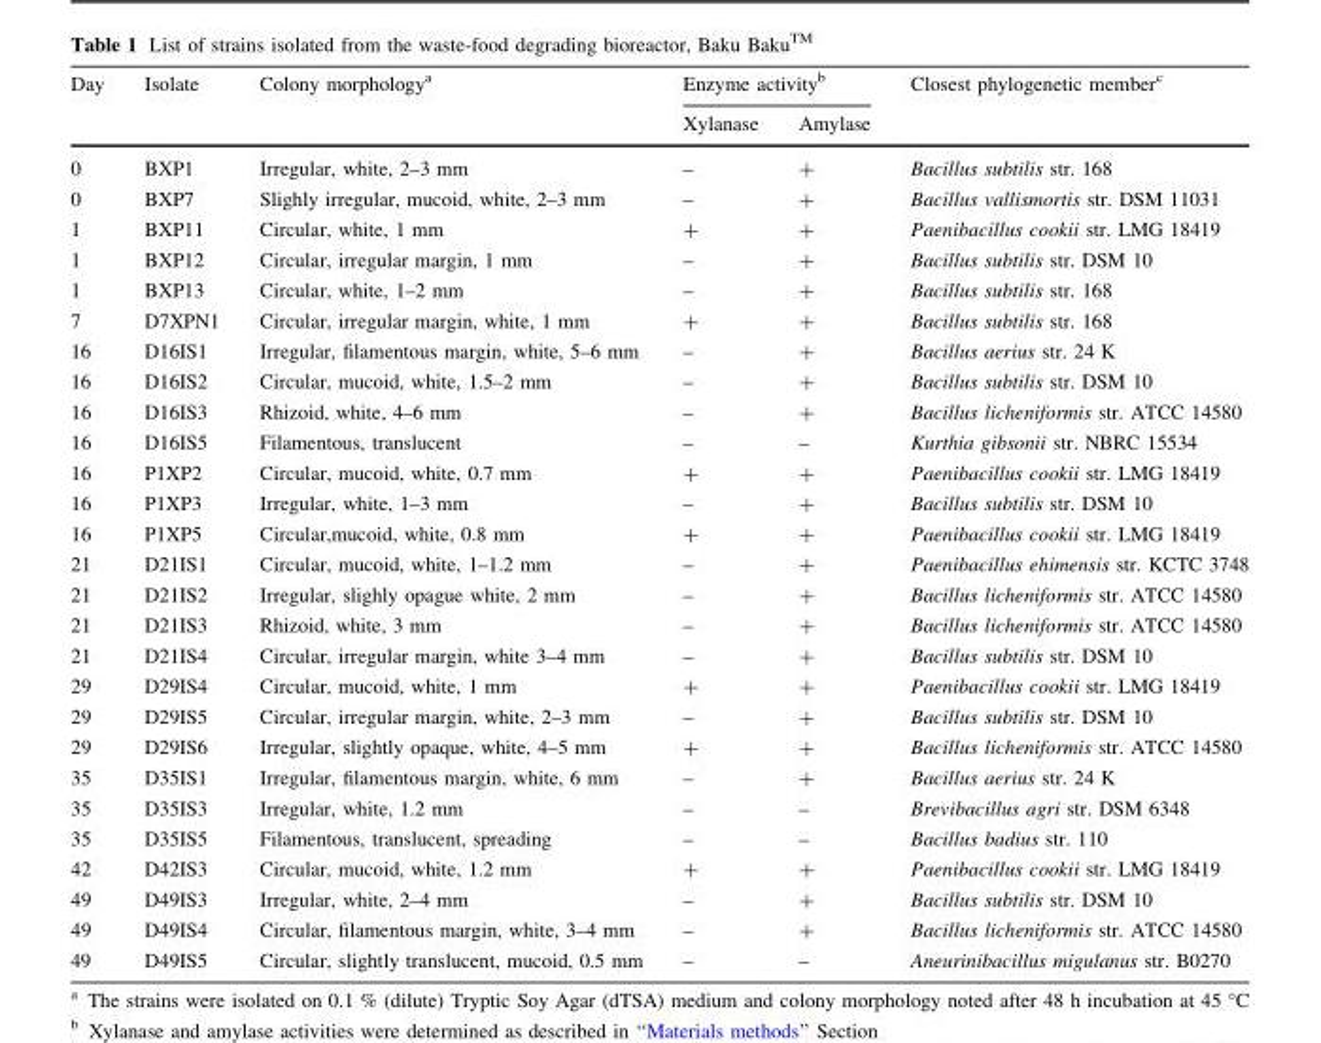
<table><thead><tr><td rowspan="2">Day</td><td rowspan="2">Isolate</td><td rowspan="2">Colony morphology<sup>a</sup></td><td colspan="2">Enzyme activity<sup>b</sup></td><td rowspan="2">Closest phylogenetic member<sup>c</sup></td></tr><tr><td>Xylanase</td><td>Amylase</td></tr></thead><tbody><tr><td>0</td><td>BXP1</td><td>Irregular, white, 2–3 mm</td><td>–</td><td>+</td><td>Bacillus subtilis str. 168</td></tr><tr><td>0</td><td>BXP7</td><td>Slighly irregular, mucoid, white, 2–3 mm</td><td>–</td><td>+</td><td>Bacillus vallismortis str. DSM 11031</td></tr><tr><td>1</td><td>BXP11</td><td>Circular, white, 1 mm</td><td>+</td><td>+</td><td>Paenibacillus cookii str. LMG 18419</td></tr><tr><td>1</td><td>BXP12</td><td>Circular, irregular margin, 1 mm</td><td>–</td><td>+</td><td>Bacillus subtilis str. DSM 10</td></tr><tr><td>1</td><td>BXP13</td><td>Circular, white, 1–2 mm</td><td>–</td><td>+</td><td>Bacillus subtilis str. 168</td></tr><tr><td>7</td><td>D7XPN1</td><td>Circular, irregular margin, white, 1 mm</td><td>+</td><td>+</td><td>Bacillus subtilis str. 168</td></tr><tr><td>16</td><td>D16IS1</td><td>Irregular, filamentous margin, white, 5–6 mm</td><td>–</td><td>+</td><td>Bacillus aerius str. 24 K</td></tr><tr><td>16</td><td>D16IS2</td><td>Circular, mucoid, white, 1.5–2 mm</td><td>–</td><td>+</td><td>Bacillus subtilis str. DSM 10</td></tr><tr><td>16</td><td>D16IS3</td><td>Rhizoid, white, 4–6 mm</td><td>–</td><td>+</td><td>Bacillus licheniformis str. ATCC 14580</td></tr><tr><td>16</td><td>D16IS5</td><td>Filamentous, translucent</td><td>–</td><td>–</td><td>Kurthia gibsonii str. NBRC 15534</td></tr><tr><td>16</td><td>P1XP2</td><td>Circular, mucoid, white, 0.7 mm</td><td>+</td><td>+</td><td>Paenibacillus cookii str. LMG 18419</td></tr><tr><td>16</td><td>P1XP3</td><td>Irregular, white, 1–3 mm</td><td>–</td><td>+</td><td>Bacillus subtilis str. DSM 10</td></tr><tr><td>16</td><td>P1XP5</td><td>Circular,mucoid, white, 0.8 mm</td><td>+</td><td>+</td><td>Paenibacillus cookii str. LMG 18419</td></tr><tr><td>21</td><td>D21IS1</td><td>Circular, mucoid, white, 1–1.2 mm</td><td>–</td><td>+</td><td>Paenibacillus ehimensis str. KCTC 3748</td></tr><tr><td>21</td><td>D21IS2</td><td>Irregular, slighly opague white, 2 mm</td><td>–</td><td>+</td><td>Bacillus licheniformis str. ATCC 14580</td></tr><tr><td>21</td><td>D21IS3</td><td>Rhizoid, white, 3 mm</td><td>–</td><td>+</td><td>Bacillus licheniformis str. ATCC 14580</td></tr><tr><td>21</td><td>D21IS4</td><td>Circular, irregular margin, white 3–4 mm</td><td>–</td><td>+</td><td>Bacillus subtilis str. DSM 10</td></tr><tr><td>29</td><td>D29IS4</td><td>Circular, mucoid, white, 1 mm</td><td>+</td><td>+</td><td>Paenibacillus cookii str. LMG 18419</td></tr><tr><td>29</td><td>D29IS5</td><td>Circular, irregular margin, white, 2–3 mm</td><td>–</td><td>+</td><td>Bacillus subtilis str. DSM 10</td></tr><tr><td>29</td><td>D29IS6</td><td>Irregular, slightly opaque, white, 4–5 mm</td><td>+</td><td>+</td><td>Bacillus licheniformis str. ATCC 14580</td></tr><tr><td>35</td><td>D35IS1</td><td>Irregular, filamentous margin, white, 6 mm</td><td>–</td><td>+</td><td>Bacillus aerius str. 24 K</td></tr><tr><td>35</td><td>D35IS3</td><td>Irregular, white, 1.2 mm</td><td>–</td><td>–</td><td>Brevibacillus agri str. DSM 6348</td></tr><tr><td>35</td><td>D35IS5</td><td>Filamentous, translucent, spreading</td><td>–</td><td>–</td><td>Bacillus badius str. 110</td></tr><tr><td>42</td><td>D42IS3</td><td>Circular, mucoid, white, 1.2 mm</td><td>+</td><td>+</td><td>Paenibacillus cookii str. LMG 18419</td></tr><tr><td>49</td><td>D49IS3</td><td>Irregular, white, 2–4 mm</td><td>–</td><td>+</td><td>Bacillus subtilis str. DSM 10</td></tr><tr><td>49</td><td>D49IS4</td><td>Circular, filamentous margin, white, 3–4 mm</td><td>–</td><td>+</td><td>Bacillus licheniformis str. ATCC 14580</td></tr><tr><td>49</td><td>D49IS5</td><td>Circular, slightly translucent, mucoid, 0.5 mm</td><td>–</td><td>–</td><td>Aneurinibacillus migulanus str. B0270</td></tr></tbody></table>